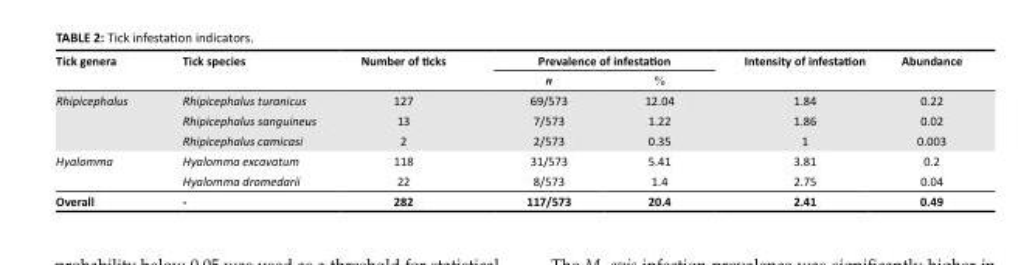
<table><thead><tr><td rowspan="2">Tick genera</td><td rowspan="2">Tick species</td><td rowspan="2">Number of ticks</td><td colspan="2">Prevalence of infestation</td><td rowspan="2">Intensity of infestation</td><td rowspan="2">Abundance</td></tr><tr><td>n</td><td>%</td></tr></thead><tbody><tr><td rowspan="3">Rhipicephalus</td><td>Rhipicephalus turanicus</td><td>127</td><td>69/573</td><td>12.04</td><td>1.84</td><td>0.22</td></tr><tr><td>Rhipicephalus sanguineus</td><td>13</td><td>7/573</td><td>1.22</td><td>1.86</td><td>0.02</td></tr><tr><td>Rhipicephalus camicasi</td><td>2</td><td>2/573</td><td>0.35</td><td>1</td><td>0.003</td></tr><tr><td rowspan="2">Hyalomma</td><td>Hyalomma excavatum</td><td>118</td><td>31/573</td><td>5.41</td><td>3.81</td><td>0.2</td></tr><tr><td>Hyalomma dromedarii</td><td>22</td><td>8/573</td><td>1.4</td><td>2.75</td><td>0.04</td></tr><tr><td>Overall</td><td>-</td><td>282</td><td>117/573</td><td>20.4</td><td>2.41</td><td>0.49</td></tr></tbody></table>